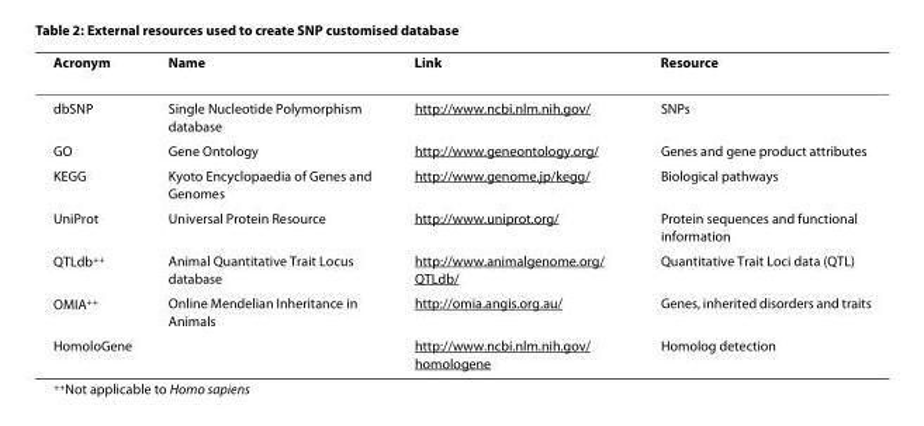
<table><thead><tr><td>Acronym</td><td>Name</td><td>Link</td><td>Resource</td></tr></thead><tbody><tr><td>dbSNP</td><td>Single Nucleotide Polymorphism database</td><td>http://www.ncbi.nlm.nih.gov/</td><td>SNPs</td></tr><tr><td>GO</td><td>Gene Ontology</td><td>http://www.geneontology.org/</td><td>Genes and gene product attributes</td></tr><tr><td>KEGG</td><td>Kyoto Encyclopaedia of Genes and Genomes</td><td>http://www.genome.jp/kegg/</td><td>Biological pathways</td></tr><tr><td>UniProt</td><td>Universal Protein Resource</td><td>http://www.uniprot.org/</td><td>Protein sequences and functional information</td></tr><tr><td>QTLdb<sup>++</sup></td><td>Animal Quantitative Trait Locus database</td><td>http://www.animalgenome.org/ QTLdb/</td><td>Quantitative Trait Loci data (QTL)</td></tr><tr><td>OMIA<sup>++</sup></td><td>Online Mendelian Inheritance in Animals</td><td>http://omia.angis.org.au/</td><td>Genes, inherited disorders and traits</td></tr><tr><td>HomoloGene</td><td></td><td>http://www.ncbi.nlm.nih.gov/ homologene</td><td>Homolog detection</td></tr></tbody></table>